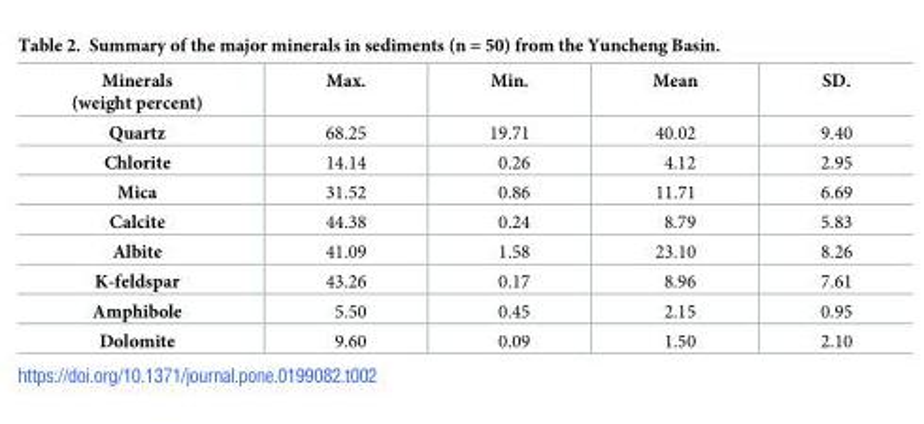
<table><thead><tr><td>Minerals (weight percent)</td><td>Max.</td><td>Min.</td><td>Mean</td><td>SD.</td></tr></thead><tbody><tr><td>Quartz</td><td>68.25</td><td>19.71</td><td>40.02</td><td>9.40</td></tr><tr><td>Chlorite</td><td>14.14</td><td>0.26</td><td>4.12</td><td>2.95</td></tr><tr><td>Mica</td><td>31.52</td><td>0.86</td><td>11.71</td><td>6.69</td></tr><tr><td>Calcite</td><td>44.38</td><td>0.24</td><td>8.79</td><td>5.83</td></tr><tr><td>Albite</td><td>41.09</td><td>1.58</td><td>23.10</td><td>8.26</td></tr><tr><td>K-feldspar</td><td>43.26</td><td>0.17</td><td>8.96</td><td>7.61</td></tr><tr><td>Amphibole</td><td>5.50</td><td>0.45</td><td>2.15</td><td>0.95</td></tr><tr><td>Dolomite</td><td>9.60</td><td>0.09</td><td>1.50</td><td>2.10</td></tr></tbody></table>